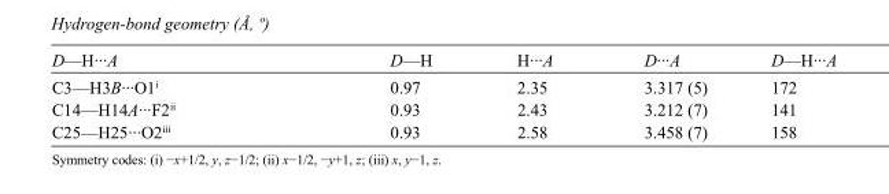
<table><tbody><tr><td>D—H···A</td><td>D—H</td><td>H···A</td><td>D···A</td><td>D—H···A</td></tr><tr><td>C3—H3B···O1<sup>i</sup></td><td>0.97</td><td>2.35</td><td>3.317 (5)</td><td>172</td></tr><tr><td>C14—H14A···F2<sup>ii</sup></td><td>0.93</td><td>2.43</td><td>3.212 (7)</td><td>141</td></tr><tr><td>C25—H25···O2<sup>iii</sup></td><td>0.93</td><td>2.58</td><td>3.458 (7)</td><td>158</td></tr></tbody></table>